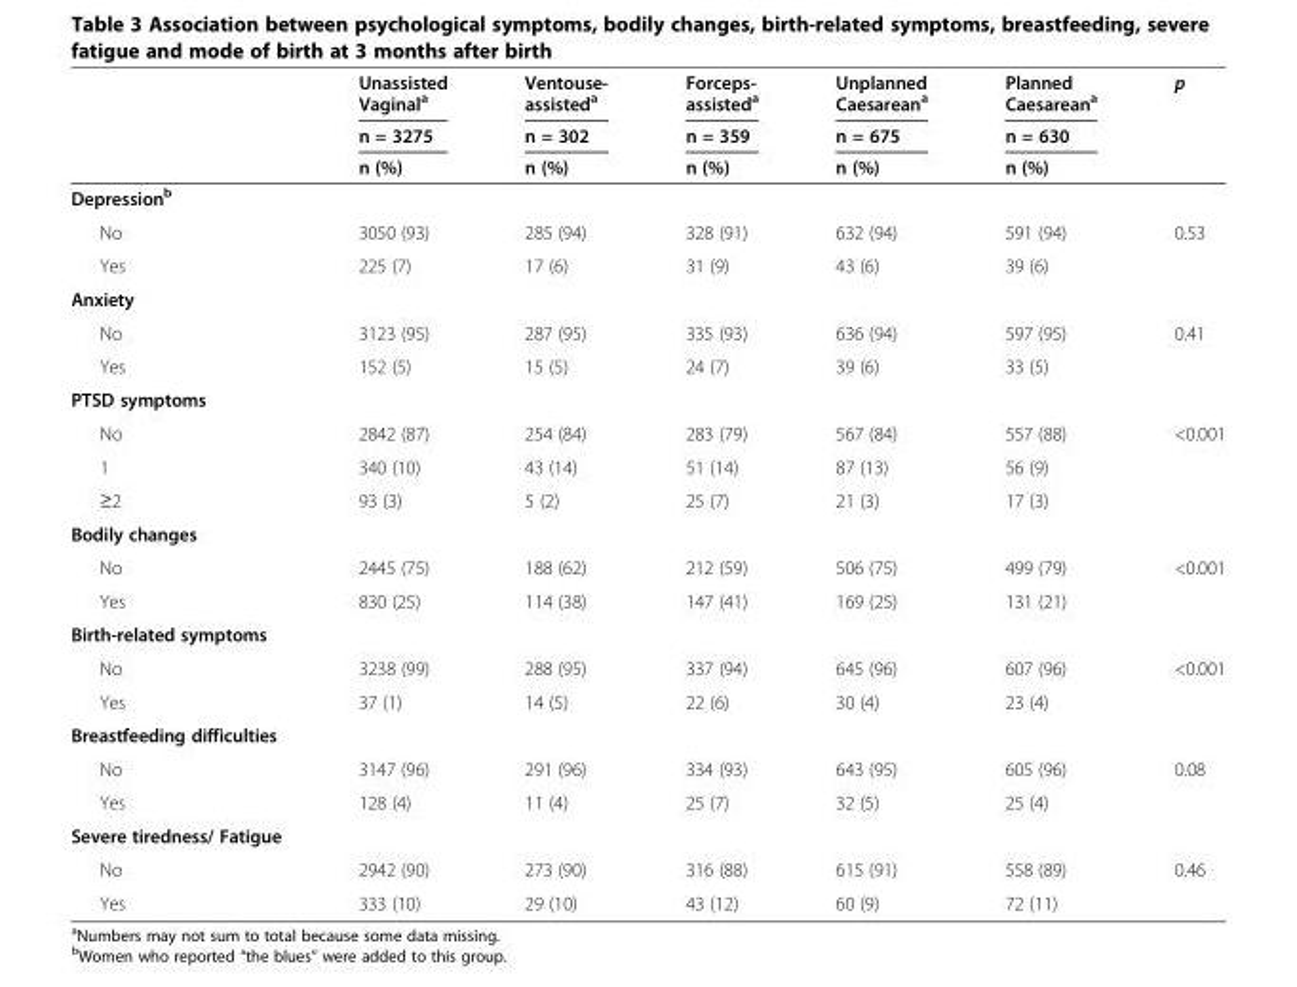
<table><thead><tr><td rowspan="3"></td><td rowspan="3">Unassisted Vaginal<sup>a</sup> n = 3275 n (%)</td><td rowspan="3">Ventouse- assisted<sup>a</sup> n = 302 n (%)</td><td rowspan="3">Forceps- assisted<sup>a</sup> n = 359 n (%)</td><td rowspan="3">Unplanned Caesarean<sup>a</sup> n = 675 n (%)</td><td rowspan="3">Planned Caesarean<sup>a</sup> n = 630 n (%)</td><td rowspan="3">p</td></tr><tr></tr><tr></tr></thead><tbody><tr><td colspan="7">Depression<sup>b</sup></td></tr><tr><td>No</td><td>3050 (93)</td><td>285 (94)</td><td>328 (91)</td><td>632 (94)</td><td>591 (94)</td><td>0.53</td></tr><tr><td>Yes</td><td>225 (7)</td><td>17 (6)</td><td>31 (9)</td><td>43 (6)</td><td>39 (6)</td><td></td></tr><tr><td colspan="7">Anxiety</td></tr><tr><td>No</td><td>3123 (95)</td><td>287 (95)</td><td>335 (93)</td><td>636 (94)</td><td>597 (95)</td><td>0.41</td></tr><tr><td>Yes</td><td>152 (5)</td><td>15 (5)</td><td>24 (7)</td><td>39 (6)</td><td>33 (5)</td><td></td></tr><tr><td colspan="7">PTSD symptoms</td></tr><tr><td>No</td><td>2842 (87)</td><td>254 (84)</td><td>283 (79)</td><td>567 (84)</td><td>557 (88)</td><td>&lt;0.001</td></tr><tr><td>1</td><td>340 (10)</td><td>43 (14)</td><td>51 (14)</td><td>87 (13)</td><td>56 (9)</td><td></td></tr><tr><td>≥2</td><td>93 (3)</td><td>5 (2)</td><td>25 (7)</td><td>21 (3)</td><td>17 (3)</td><td></td></tr><tr><td colspan="7">Bodily changes</td></tr><tr><td>No</td><td>2445 (75)</td><td>188 (62)</td><td>212 (59)</td><td>506 (75)</td><td>499 (79)</td><td>&lt;0.001</td></tr><tr><td>Yes</td><td>830 (25)</td><td>114 (38)</td><td>147 (41)</td><td>169 (25)</td><td>131 (21)</td><td></td></tr><tr><td colspan="7">Birth-related symptoms</td></tr><tr><td>No</td><td>3238 (99)</td><td>288 (95)</td><td>337 (94)</td><td>645 (96)</td><td>607 (96)</td><td>&lt;0.001</td></tr><tr><td>Yes</td><td>37 (1)</td><td>14 (5)</td><td>22 (6)</td><td>30 (4)</td><td>23 (4)</td><td></td></tr><tr><td colspan="7">Breastfeeding difficulties</td></tr><tr><td>No</td><td>3147 (96)</td><td>291 (96)</td><td>334 (93)</td><td>643 (95)</td><td>605 (96)</td><td>0.08</td></tr><tr><td>Yes</td><td>128 (4)</td><td>11 (4)</td><td>25 (7)</td><td>32 (5)</td><td>25 (4)</td><td></td></tr><tr><td colspan="7">Severe tiredness/ Fatigue</td></tr><tr><td>No</td><td>2942 (90)</td><td>273 (90)</td><td>316 (88)</td><td>615 (91)</td><td>558 (89)</td><td>0.46</td></tr><tr><td>Yes</td><td>333 (10)</td><td>29 (10)</td><td>43 (12)</td><td>60 (9)</td><td>72 (11)</td><td></td></tr></tbody></table>